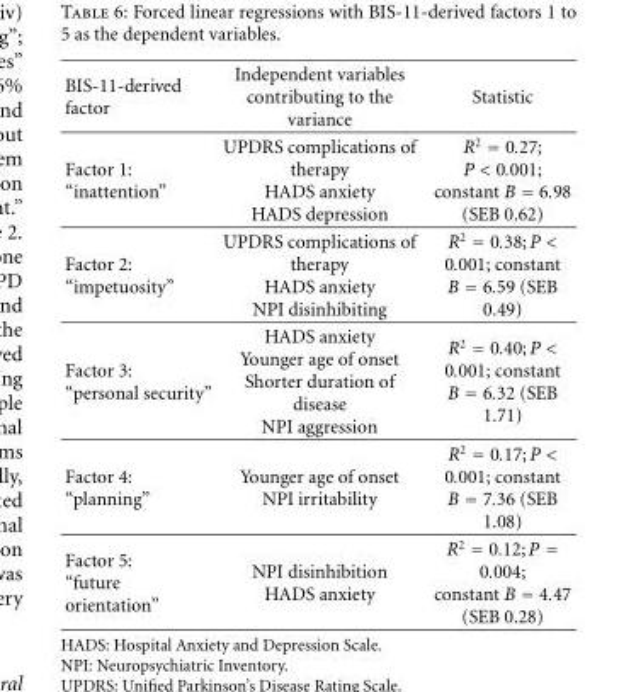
<table><thead><tr><td>BIS-11-derived factor</td><td>Independent variables contributing to the variance</td><td>Statistic</td></tr></thead><tbody><tr><td>Factor 1: “inattention”</td><td>UPDRS complications of therapy HADS anxiety HADS depression</td><td>R<sup>2</sup> = 0.27; P &lt; 0.001; constant B = 6.98 (SEB 0.62)</td></tr><tr><td>Factor 2: “impetuosity”</td><td>UPDRS complications of therapy HADS anxiety NPI disinhibiting</td><td>R<sup>2</sup> = 0.38;P &lt; 0.001; constant B = 6.59 (SEB 0.49)</td></tr><tr><td>Factor 3: “personal security”</td><td>HADS anxiety Younger age of onset Shorter duration of disease NPI aggression</td><td>R<sup>2</sup> = 0.40;P &lt; 0.001; constant B = 6.32 (SEB 1.71)</td></tr><tr><td>Factor 4: “planning”</td><td>Younger age of onset NPI irritability</td><td>R<sup>2</sup> = 0.17;P &lt; 0.001; constant B = 7.36 (SEB 1.08)</td></tr><tr><td>Factor 5: “future orientation”</td><td>NPI disinhibition HADS anxiety</td><td>R<sup>2</sup> = 0.12;P = 0.004; constant B = 4.47 (SEB 0.28)</td></tr></tbody></table>